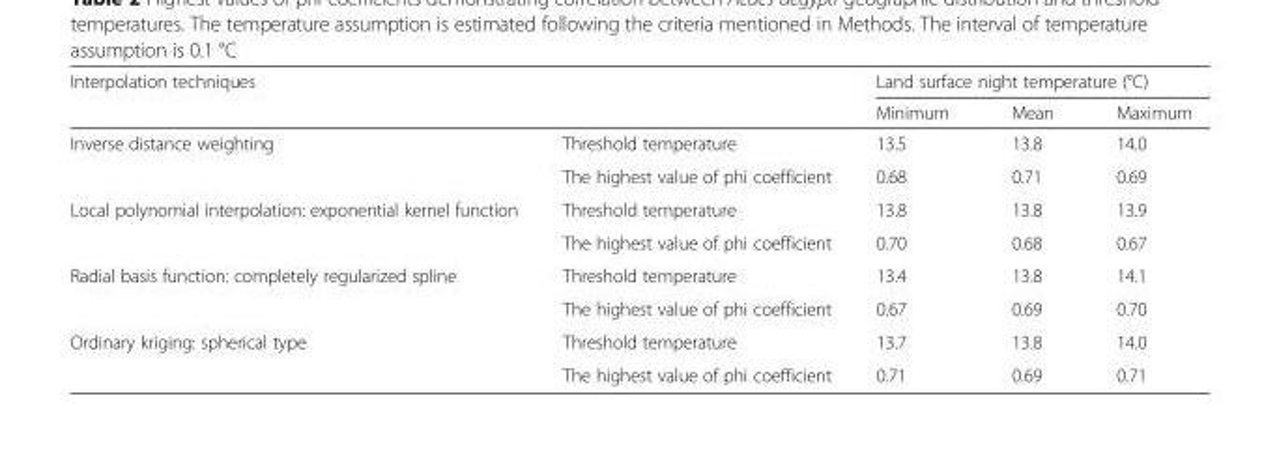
<table><thead><tr><td rowspan="2">Interpolation techniques</td><td rowspan="2"></td><td colspan="3">Land surface night temperature (°C)</td></tr><tr><td>Minimum</td><td>Mean</td><td>Maximum</td></tr></thead><tbody><tr><td rowspan="2">Inverse distance weighting</td><td>Threshold temperature</td><td>13.5</td><td>13.8</td><td>14.0</td></tr><tr><td>The highest value of phi coefficient</td><td>0.68</td><td>0.71</td><td>0.69</td></tr><tr><td rowspan="2">Local polynomial interpolation: exponential kernel function</td><td>Threshold temperature</td><td>13.8</td><td>13.8</td><td>13.9</td></tr><tr><td>The highest value of phi coefficient</td><td>0.70</td><td>0.68</td><td>0.67</td></tr><tr><td rowspan="2">Radial basis function: completely regularized spline</td><td>Threshold temperature</td><td>13.4</td><td>13.8</td><td>14.1</td></tr><tr><td>The highest value of phi coefficient</td><td>0.67</td><td>0.69</td><td>0.70</td></tr><tr><td rowspan="2">Ordinary kriging: spherical type</td><td>Threshold temperature</td><td>13.7</td><td>13.8</td><td>14.0</td></tr><tr><td>The highest value of phi coefficient</td><td>0.71</td><td>0.69</td><td>0.71</td></tr></tbody></table>